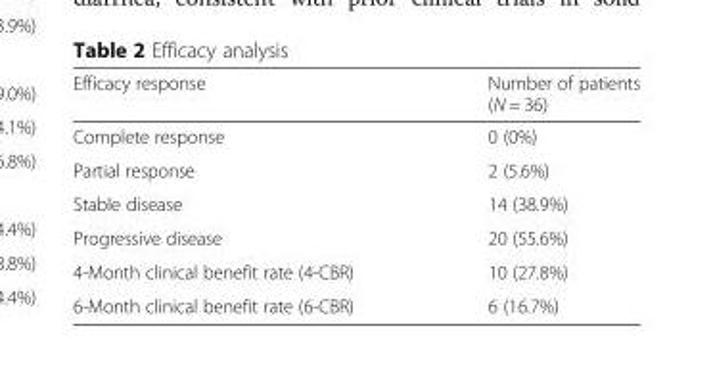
<table><thead><tr><td>Efficacy response</td><td>Number of patients (N = 36)</td></tr></thead><tbody><tr><td>Complete response</td><td>0 (0%)</td></tr><tr><td>Partial response</td><td>2 (5.6%)</td></tr><tr><td>Stable disease</td><td>14 (38.9%)</td></tr><tr><td>Progressive disease</td><td>20 (55.6%)</td></tr><tr><td>4-Month clinical benefit rate (4-CBR)</td><td>10 (27.8%)</td></tr><tr><td>6-Month clinical benefit rate (6-CBR)</td><td>6 (16.7%)</td></tr></tbody></table>